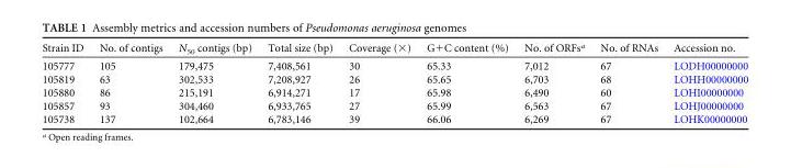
<table><thead><tr><td>Strain ID</td><td>No. of contigs</td><td>N<sub>50</sub> contigs (bp)</td><td>Total size (bp)</td><td>Coverage (×)</td><td>G+C content (%)</td><td>No. of ORFs<sup>a</sup></td><td>No. of RNAs</td><td>Accession no.</td></tr></thead><tbody><tr><td>105777</td><td>105</td><td>179,475</td><td>7,408,561</td><td>30</td><td>65.33</td><td>7,012</td><td>67</td><td>LODH00000000</td></tr><tr><td>105819</td><td>63</td><td>302,533</td><td>7,208,927</td><td>26</td><td>65.65</td><td>6,703</td><td>68</td><td>LOHH00000000</td></tr><tr><td>105880</td><td>86</td><td>215,191</td><td>6,914,271</td><td>17</td><td>65.98</td><td>6,490</td><td>60</td><td>LOHI00000000</td></tr><tr><td>105857</td><td>93</td><td>304,460</td><td>6,933,765</td><td>27</td><td>65.99</td><td>6,563</td><td>67</td><td>LOHJ00000000</td></tr><tr><td>105738</td><td>137</td><td>102,664</td><td>6,783,146</td><td>39</td><td>66.06</td><td>6,269</td><td>67</td><td>LOHK00000000</td></tr></tbody></table>